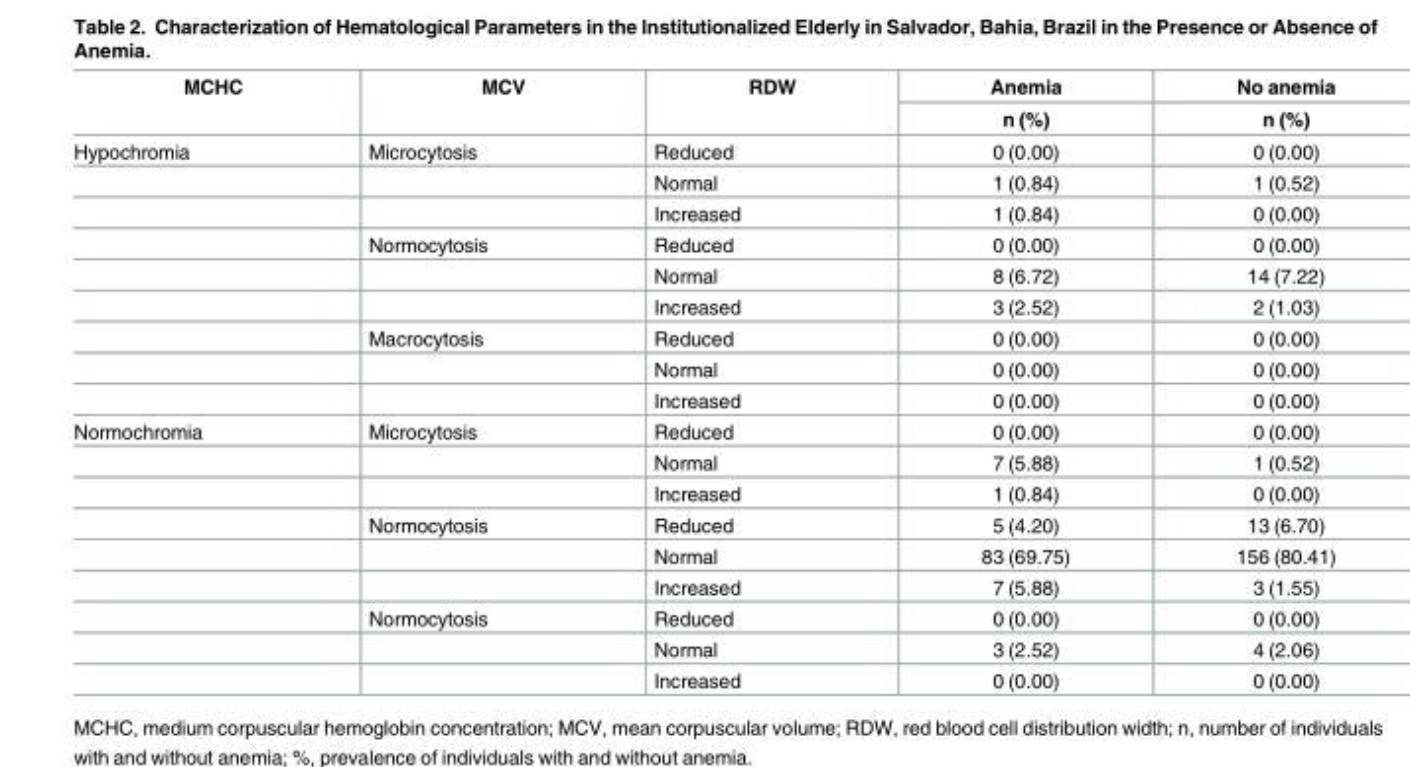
<table><thead><tr><td rowspan="2">MCHC</td><td rowspan="2">MCV</td><td rowspan="2">RDW</td><td rowspan="2">Anemia n (%)</td><td rowspan="2">No anemia n (%)</td></tr><tr></tr></thead><tbody><tr><td rowspan="9">Hypochromia</td><td>Microcytosis</td><td>Reduced</td><td>0 (0.00)</td><td>0 (0.00)</td></tr><tr><td></td><td>Normal</td><td>1 (0.84)</td><td>1 (0.52)</td></tr><tr><td></td><td>Increased</td><td>1 (0.84)</td><td>0 (0.00)</td></tr><tr><td>Normocytosis</td><td>Reduced</td><td>0 (0.00)</td><td>0 (0.00)</td></tr><tr><td></td><td>Normal</td><td>8 (6.72)</td><td>14 (7.22)</td></tr><tr><td></td><td>Increased</td><td>3 (2.52)</td><td>2 (1.03)</td></tr><tr><td>Macrocytosis</td><td>Reduced</td><td>0 (0.00)</td><td>0 (0.00)</td></tr><tr><td></td><td>Normal</td><td>0 (0.00)</td><td>0 (0.00)</td></tr><tr><td></td><td>Increased</td><td>0 (0.00)</td><td>0 (0.00)</td></tr><tr><td rowspan="9">Normochromia</td><td>Microcytosis</td><td>Reduced</td><td>0 (0.00)</td><td>0 (0.00)</td></tr><tr><td></td><td>Normal</td><td>7 (5.88)</td><td>1 (0.52)</td></tr><tr><td></td><td>Increased</td><td>1 (0.84)</td><td>0 (0.00)</td></tr><tr><td>Normocytosis</td><td>Reduced</td><td>5 (4.20)</td><td>13 (6.70)</td></tr><tr><td></td><td>Normal</td><td>83 (69.75)</td><td>156 (80.41)</td></tr><tr><td></td><td>Increased</td><td>7 (5.88)</td><td>3 (1.55)</td></tr><tr><td>Normocytosis</td><td>Reduced</td><td>0 (0.00)</td><td>0 (0.00)</td></tr><tr><td></td><td>Normal</td><td>3 (2.52)</td><td>4 (2.06)</td></tr><tr><td></td><td>Increased</td><td>0 (0.00)</td><td>0 (0.00)</td></tr></tbody></table>